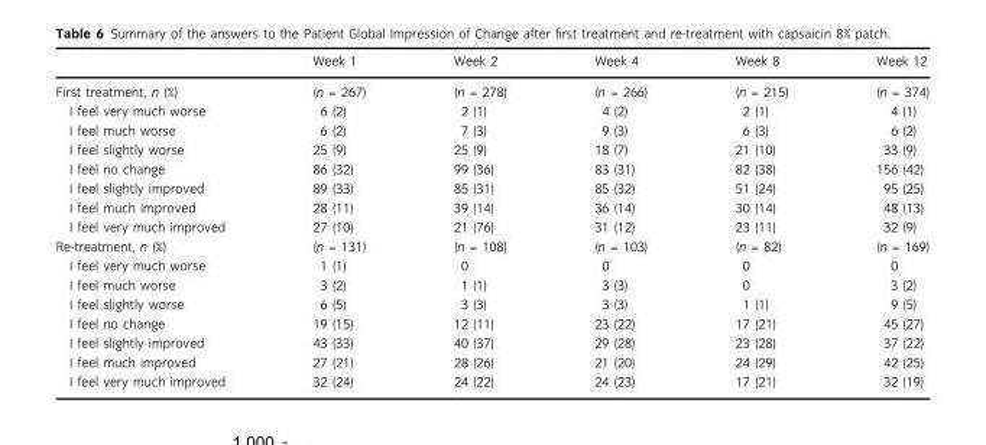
<table><thead><tr><td></td><td>Week 1</td><td>Week 2</td><td>Week 4</td><td>Week 8</td><td>Week 12</td></tr></thead><tbody><tr><td>First treatment, n (%)</td><td>(n = 267)</td><td>(n = 278)</td><td>(n = 266)</td><td>(n = 215)</td><td>(n = 374)</td></tr><tr><td>I feel very much worse</td><td>6 (2)</td><td>2 (1)</td><td>4 (2)</td><td>2 (1)</td><td>4 (1)</td></tr><tr><td>I feel much worse</td><td>6 (2)</td><td>7 (3)</td><td>9 (3)</td><td>6 (3)</td><td>6 (2)</td></tr><tr><td>I feel slightly worse</td><td>25 (9)</td><td>25 (9)</td><td>18 (7)</td><td>21 (10)</td><td>33 (9)</td></tr><tr><td>I feel no change</td><td>86 (32)</td><td>99 (36)</td><td>83 (31)</td><td>82 (38)</td><td>156 (42)</td></tr><tr><td>I feel slightly improved</td><td>89 (33)</td><td>85 (31)</td><td>85 (32)</td><td>51 (24)</td><td>95 (25)</td></tr><tr><td>I feel much improved</td><td>28 (11)</td><td>39 (14)</td><td>36 (14)</td><td>30 (14)</td><td>48 (13)</td></tr><tr><td>I feel very much improved</td><td>27 (10)</td><td>21 (76)</td><td>31 (12)</td><td>23 (11)</td><td>32 (9)</td></tr><tr><td>Re-treatment, n (%)</td><td>(n = 131)</td><td>(n = 108)</td><td>(n = 103)</td><td>(n = 82)</td><td>(n = 169)</td></tr><tr><td>I feel very much worse</td><td>1 (1)</td><td>0</td><td>0</td><td>0</td><td>0</td></tr><tr><td>I feel much worse</td><td>3 (2)</td><td>1 (1)</td><td>3 (3)</td><td>0</td><td>3 (2)</td></tr><tr><td>I feel slightly worse</td><td>6 (5)</td><td>3 (3)</td><td>3 (3)</td><td>1 (1)</td><td>9 (5)</td></tr><tr><td>I feel no change</td><td>19 (15)</td><td>12 (11)</td><td>23 (22)</td><td>17 (21)</td><td>45 (27)</td></tr><tr><td>I feel slightly improved</td><td>43 (33)</td><td>40 (37)</td><td>29 (28)</td><td>23 (28)</td><td>37 (22)</td></tr><tr><td>I feel much improved</td><td>27 (21)</td><td>28 (26)</td><td>21 (20)</td><td>24 (29)</td><td>42 (25)</td></tr><tr><td>I feel very much improved</td><td>32 (24)</td><td>24 (22)</td><td>24 (23)</td><td>17 (21)</td><td>32 (19)</td></tr></tbody></table>